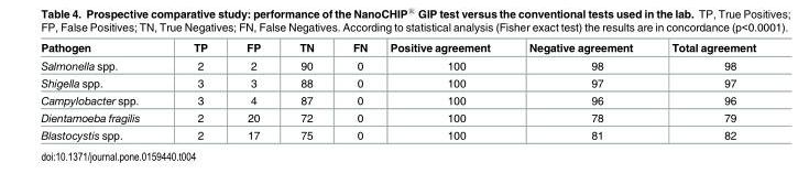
<table><thead><tr><td>Pathogen</td><td>TP</td><td>FP</td><td>TN</td><td>FN</td><td>Positive agreement</td><td>Negative agreement</td><td>Total agreement</td></tr></thead><tbody><tr><td>Salmonella spp.</td><td>2</td><td>2</td><td>90</td><td>0</td><td>100</td><td>98</td><td>98</td></tr><tr><td>Shigella spp.</td><td>3</td><td>3</td><td>88</td><td>0</td><td>100</td><td>97</td><td>97</td></tr><tr><td>Campylobacter spp.</td><td>3</td><td>4</td><td>87</td><td>0</td><td>100</td><td>96</td><td>96</td></tr><tr><td>Dientamoeba fragilis</td><td>2</td><td>20</td><td>72</td><td>0</td><td>100</td><td>78</td><td>79</td></tr><tr><td>Blastocystis spp.</td><td>2</td><td>17</td><td>75</td><td>0</td><td>100</td><td>81</td><td>82</td></tr></tbody></table>